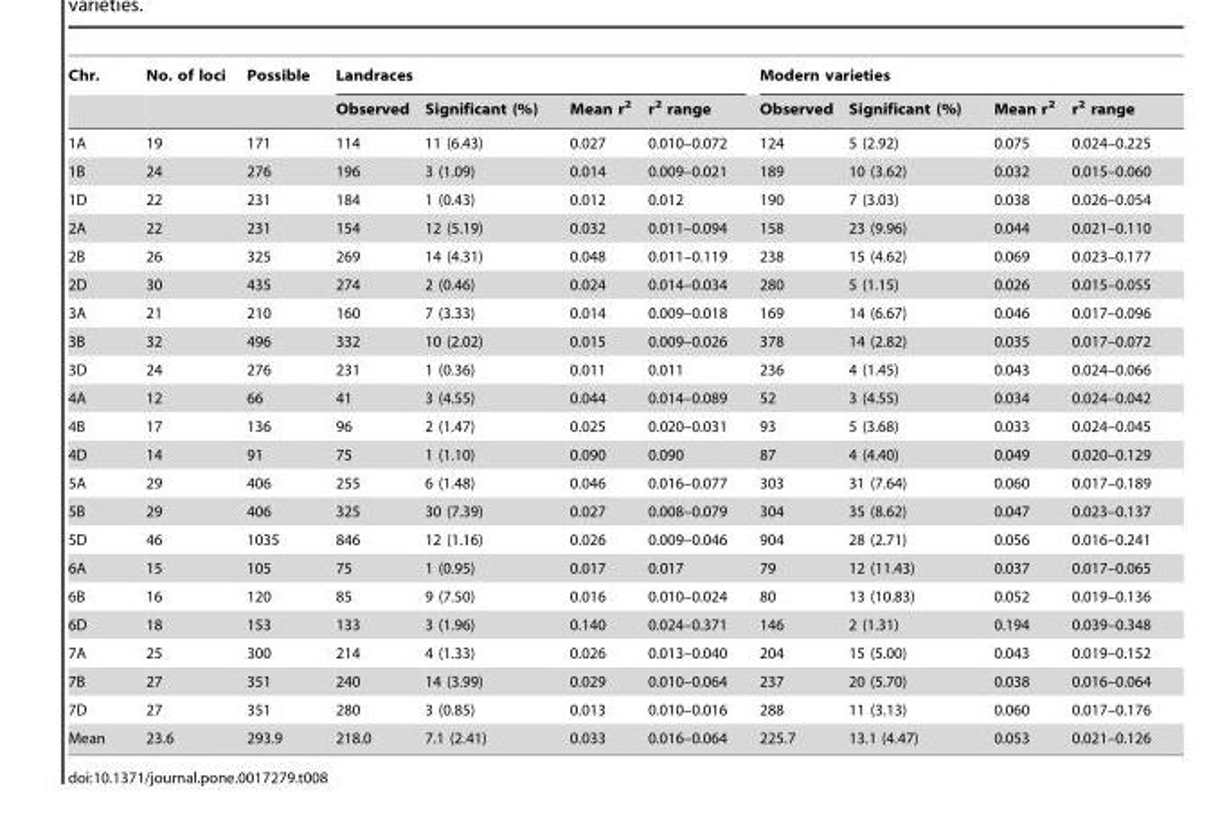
<table><thead><tr><td rowspan="2">Chr.</td><td rowspan="2">No. of loci</td><td rowspan="2">Possible</td><td colspan="4">Landraces</td><td colspan="4">Modern varieties</td></tr><tr><td>Observed</td><td>Significant (%)</td><td>Mean r<sup>2</sup></td><td>r<sup>2</sup> range</td><td>Observed</td><td>Significant (%)</td><td>Mean r<sup>2</sup></td><td>r<sup>2</sup> range</td></tr></thead><tbody><tr><td>1A</td><td>19</td><td>171</td><td>114</td><td>11 (6.43)</td><td>0.027</td><td>0.010–0.072</td><td>124</td><td>5 (2.92)</td><td>0.075</td><td>0.024–0.225</td></tr><tr><td>1B</td><td>24</td><td>276</td><td>196</td><td>3 (1.09)</td><td>0.014</td><td>0.009–0.021</td><td>189</td><td>10 (3.62)</td><td>0.032</td><td>0.015–0.060</td></tr><tr><td>1D</td><td>22</td><td>231</td><td>184</td><td>1 (0.43)</td><td>0.012</td><td>0.012</td><td>190</td><td>7 (3.03)</td><td>0.038</td><td>0.026–0.054</td></tr><tr><td>2A</td><td>22</td><td>231</td><td>154</td><td>12 (5.19)</td><td>0.032</td><td>0.011–0.094</td><td>158</td><td>23 (9.96)</td><td>0.044</td><td>0.021–0.110</td></tr><tr><td>2B</td><td>26</td><td>325</td><td>269</td><td>14 (4.31)</td><td>0.048</td><td>0.011–0.119</td><td>238</td><td>15 (4.62)</td><td>0.069</td><td>0.023–0.177</td></tr><tr><td>2D</td><td>30</td><td>435</td><td>274</td><td>2 (0.46)</td><td>0.024</td><td>0.014–0.034</td><td>280</td><td>5 (1.15)</td><td>0.026</td><td>0.015–0.055</td></tr><tr><td>3A</td><td>21</td><td>210</td><td>160</td><td>7 (3.33)</td><td>0.014</td><td>0.009–0.018</td><td>169</td><td>14 (6.67)</td><td>0.046</td><td>0.017–0.096</td></tr><tr><td>3B</td><td>32</td><td>496</td><td>332</td><td>10 (2.02)</td><td>0.015</td><td>0.009–0.026</td><td>378</td><td>14 (2.82)</td><td>0.035</td><td>0.017–0.072</td></tr><tr><td>3D</td><td>24</td><td>276</td><td>231</td><td>1 (0.36)</td><td>0.011</td><td>0.011</td><td>236</td><td>4 (1.45)</td><td>0.043</td><td>0.024–0.066</td></tr><tr><td>4A</td><td>12</td><td>66</td><td>41</td><td>3 (4.55)</td><td>0.044</td><td>0.014–0.089</td><td>52</td><td>3 (4.55)</td><td>0.034</td><td>0.024–0.042</td></tr><tr><td>4B</td><td>17</td><td>136</td><td>96</td><td>2 (1.47)</td><td>0.025</td><td>0.020–0.031</td><td>93</td><td>5 (3.68)</td><td>0.033</td><td>0.024–0.045</td></tr><tr><td>4D</td><td>14</td><td>91</td><td>75</td><td>1 (1.10)</td><td>0.090</td><td>0.090</td><td>87</td><td>4 (4.40)</td><td>0.049</td><td>0.020–0.129</td></tr><tr><td>5A</td><td>29</td><td>406</td><td>255</td><td>6 (1.48)</td><td>0.046</td><td>0.016–0.077</td><td>303</td><td>31 (7.64)</td><td>0.060</td><td>0.017–0.189</td></tr><tr><td>5B</td><td>29</td><td>406</td><td>325</td><td>30 (7.39)</td><td>0.027</td><td>0.008–0.079</td><td>304</td><td>35 (8.62)</td><td>0.047</td><td>0.023–0.137</td></tr><tr><td>5D</td><td>46</td><td>1035</td><td>846</td><td>12 (1.16)</td><td>0.026</td><td>0.009–0.046</td><td>904</td><td>28 (2.71)</td><td>0.056</td><td>0.016–0.241</td></tr><tr><td>6A</td><td>15</td><td>105</td><td>75</td><td>1 (0.95)</td><td>0.017</td><td>0.017</td><td>79</td><td>12 (11.43)</td><td>0.037</td><td>0.017–0.065</td></tr><tr><td>6B</td><td>16</td><td>120</td><td>85</td><td>9 (7.50)</td><td>0.016</td><td>0.010–0.024</td><td>80</td><td>13 (10.83)</td><td>0.052</td><td>0.019–0.136</td></tr><tr><td>6D</td><td>18</td><td>153</td><td>133</td><td>3 (1.96)</td><td>0.140</td><td>0.024–0.371</td><td>146</td><td>2 (1.31)</td><td>0.194</td><td>0.039–0.348</td></tr><tr><td>7A</td><td>25</td><td>300</td><td>214</td><td>4 (1.33)</td><td>0.026</td><td>0.013–0.040</td><td>204</td><td>15 (5.00)</td><td>0.043</td><td>0.019–0.152</td></tr><tr><td>7B</td><td>27</td><td>351</td><td>240</td><td>14 (3.99)</td><td>0.029</td><td>0.010–0.064</td><td>237</td><td>20 (5.70)</td><td>0.038</td><td>0.016–0.064</td></tr><tr><td>7D</td><td>27</td><td>351</td><td>280</td><td>3 (0.85)</td><td>0.013</td><td>0.010–0.016</td><td>288</td><td>11 (3.13)</td><td>0.060</td><td>0.017–0.176</td></tr><tr><td>Mean</td><td>23.6</td><td>293.9</td><td>218.0</td><td>7.1 (2.41)</td><td>0.033</td><td>0.016–0.064</td><td>225.7</td><td>13.1 (4.47)</td><td>0.053</td><td>0.021–0.126</td></tr></tbody></table>